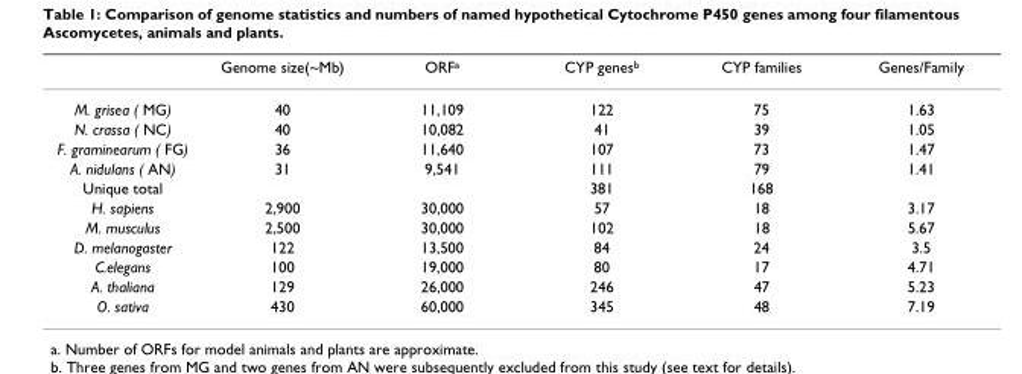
<table><thead><tr><td></td><td>Genome size(~Mb)</td><td>ORF<sup>a</sup></td><td>CYP genes<sup>b</sup></td><td>CYP families</td><td>Genes/Family</td></tr></thead><tbody><tr><td>M. grisea ( MG)</td><td>40</td><td>11,109</td><td>122</td><td>75</td><td>1.63</td></tr><tr><td>N. crassa ( NC)</td><td>40</td><td>10,082</td><td>41</td><td>39</td><td>1.05</td></tr><tr><td>F. graminearum ( FG)</td><td>36</td><td>11,640</td><td>107</td><td>73</td><td>1.47</td></tr><tr><td>A. nidulans ( AN)</td><td>31</td><td>9,541</td><td>111</td><td>79</td><td>1.41</td></tr><tr><td>Unique total</td><td></td><td></td><td>381</td><td>168</td><td></td></tr><tr><td>H. sapiens</td><td>2,900</td><td>30,000</td><td>57</td><td>18</td><td>3.17</td></tr><tr><td>M. musculus</td><td>2,500</td><td>30,000</td><td>102</td><td>18</td><td>5.67</td></tr><tr><td>D. melanogaster</td><td>122</td><td>13,500</td><td>84</td><td>24</td><td>3.5</td></tr><tr><td>C.elegans</td><td>100</td><td>19,000</td><td>80</td><td>17</td><td>4.71</td></tr><tr><td>A. thaliana</td><td>129</td><td>26,000</td><td>246</td><td>47</td><td>5.23</td></tr><tr><td>O. sativa</td><td>430</td><td>60,000</td><td>345</td><td>48</td><td>7.19</td></tr></tbody></table>